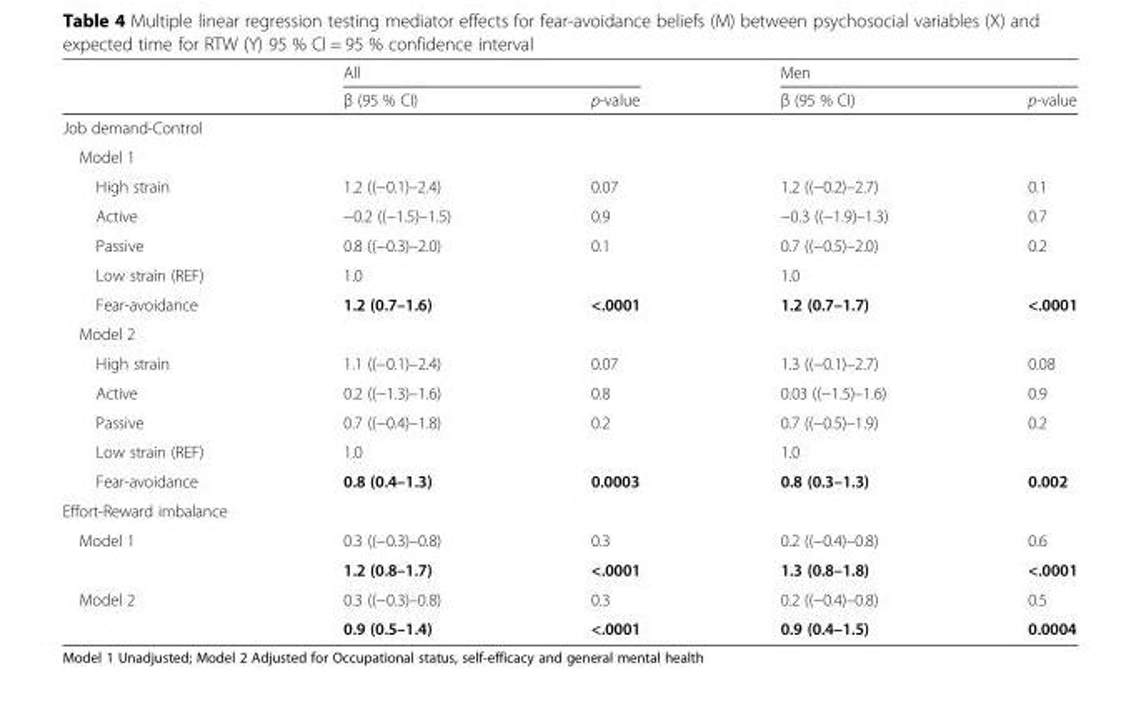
<table><thead><tr><td rowspan="2"></td><td colspan="2">All</td><td colspan="2">Men</td></tr><tr><td>β (95 % CI)</td><td>p-value</td><td>β (95 % CI)</td><td>p-value</td></tr></thead><tbody><tr><td colspan="5">Job demand-Control</td></tr><tr><td colspan="5">Model 1</td></tr><tr><td>High strain</td><td>1.2 ((−0.1)–2.4)</td><td>0.07</td><td>1.2 ((−0.2)–2.7)</td><td>0.1</td></tr><tr><td>Active</td><td>−0.2 ((−1.5)–1.5)</td><td>0.9</td><td>−0.3 ((−1.9)–1.3)</td><td>0.7</td></tr><tr><td>Passive</td><td>0.8 ((−0.3)–2.0)</td><td>0.1</td><td>0.7 ((−0.5)–2.0)</td><td>0.2</td></tr><tr><td>Low strain (REF)</td><td>1.0</td><td></td><td>1.0</td><td></td></tr><tr><td>Fear-avoidance</td><td>1.2 (0.7–1.6)</td><td>&lt;.0001</td><td>1.2 (0.7–1.7)</td><td>&lt;.0001</td></tr><tr><td colspan="5">Model 2</td></tr><tr><td>High strain</td><td>1.1 ((−0.1)–2.4)</td><td>0.07</td><td>1.3 ((−0.1)–2.7)</td><td>0.08</td></tr><tr><td>Active</td><td>0.2 ((−1.3)–1.6)</td><td>0.8</td><td>0.03 ((−1.5)–1.6)</td><td>0.9</td></tr><tr><td>Passive</td><td>0.7 ((−0.4)–1.8)</td><td>0.2</td><td>0.7 ((−0.5)–1.9)</td><td>0.2</td></tr><tr><td>Low strain (REF)</td><td>1.0</td><td></td><td>1.0</td><td></td></tr><tr><td>Fear-avoidance</td><td>0.8 (0.4–1.3)</td><td>0.0003</td><td>0.8 (0.3–1.3)</td><td>0.002</td></tr><tr><td colspan="5">Effort-Reward imbalance</td></tr><tr><td rowspan="2">Model 1</td><td>0.3 ((−0.3)–0.8)</td><td>0.3</td><td>0.2 ((−0.4)–0.8)</td><td>0.6</td></tr><tr><td>1.2 (0.8–1.7)</td><td>&lt;.0001</td><td>1.3 (0.8–1.8)</td><td>&lt;.0001</td></tr><tr><td rowspan="2">Model 2</td><td>0.3 ((−0.3)–0.8)</td><td>0.3</td><td>0.2 ((−0.4)–0.8)</td><td>0.5</td></tr><tr><td>0.9 (0.5–1.4)</td><td>&lt;.0001</td><td>0.9 (0.4–1.5)</td><td>0.0004</td></tr></tbody></table>